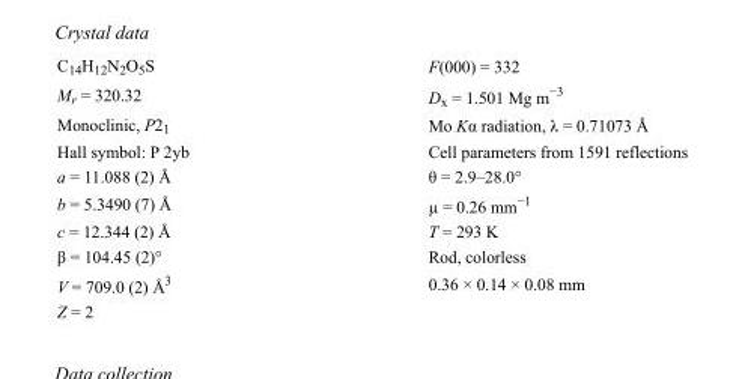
<table><tbody><tr><td>C<sub>14</sub>H<sub>12</sub>N<sub>2</sub>O<sub>5</sub>S</td><td>F(000) = 332</td></tr><tr><td>M<sub>r</sub> = 320.32</td><td>D<sub>x</sub> = 1.501 Mg m<sup>−3</sup></td></tr><tr><td>Monoclinic, P2<sub>1</sub></td><td>Mo Kα radiation, λ = 0.71073 Å</td></tr><tr><td>Hall symbol: P 2yb</td><td>Cell parameters from 1591 reflections</td></tr><tr><td>a = 11.088 (2) Å</td><td>θ = 2.9–28.0°</td></tr><tr><td>b = 5.3490 (7) Å</td><td>µ = 0.26 mm<sup>−1</sup></td></tr><tr><td>c = 12.344 (2) Å</td><td>T = 293 K</td></tr><tr><td>β = 104.45 (2)°</td><td>Rod, colorless</td></tr><tr><td>V = 709.0 (2) Å<sup>3</sup></td><td>0.36 × 0.14 × 0.08 mm</td></tr><tr><td>Z = 2</td><td></td></tr></tbody></table>